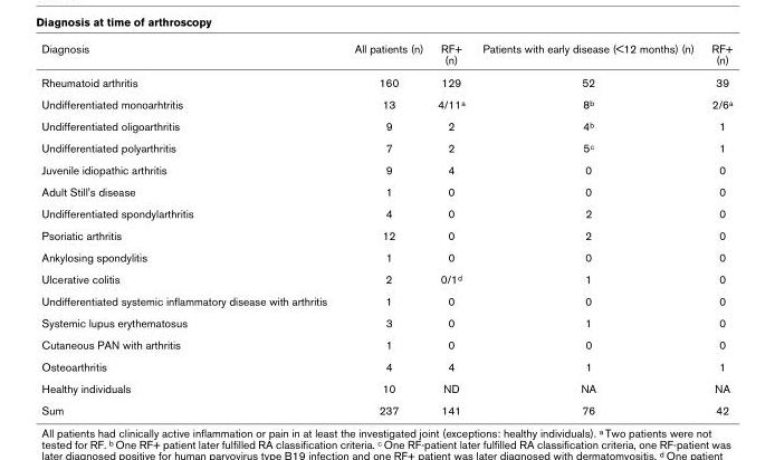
<table><thead><tr><td>Diagnosis</td><td>All patients (n)</td><td>RF+ (n)</td><td>Patients with early disease (&lt;12 months) (n)</td><td>RF+ (n)</td></tr></thead><tbody><tr><td>Rheumatoid arthritis</td><td>160</td><td>129</td><td>52</td><td>39</td></tr><tr><td>Undifferentiated monoarhtritis</td><td>13</td><td>4/11<sup>a</sup></td><td>8<sup>b</sup></td><td>2/6<sup>a</sup></td></tr><tr><td>Undifferentiated oligoarthritis</td><td>9</td><td>2</td><td>4<sup>b</sup></td><td>1</td></tr><tr><td>Undifferentiated polyarthritis</td><td>7</td><td>2</td><td>5<sup>c</sup></td><td>1</td></tr><tr><td>Juvenile idiopathic arthritis</td><td>9</td><td>4</td><td>0</td><td>0</td></tr><tr><td>Adult Still&#x27;s disease</td><td>1</td><td>0</td><td>0</td><td>0</td></tr><tr><td>Undifferentiated spondylarthritis</td><td>4</td><td>0</td><td>2</td><td>0</td></tr><tr><td>Psoriatic arthritis</td><td>12</td><td>0</td><td>2</td><td>0</td></tr><tr><td>Ankylosing spondylitis</td><td>1</td><td>0</td><td>0</td><td>0</td></tr><tr><td>Ulcerative colitis</td><td>2</td><td>0/1<sup>d</sup></td><td>1</td><td>0</td></tr><tr><td>Undifferentiated systemic inflammatory disease with arthritis</td><td>1</td><td>0</td><td>0</td><td>0</td></tr><tr><td>Systemic lupus erythematosus</td><td>3</td><td>0</td><td>1</td><td>0</td></tr><tr><td>Cutaneous PAN with arthritis</td><td>1</td><td>0</td><td>0</td><td>0</td></tr><tr><td>Osteoarthritis</td><td>4</td><td>4</td><td>1</td><td>1</td></tr><tr><td>Healthy individuals</td><td>10</td><td>ND</td><td>NA</td><td>NA</td></tr><tr><td>Sum</td><td>237</td><td>141</td><td>76</td><td>42</td></tr></tbody></table>